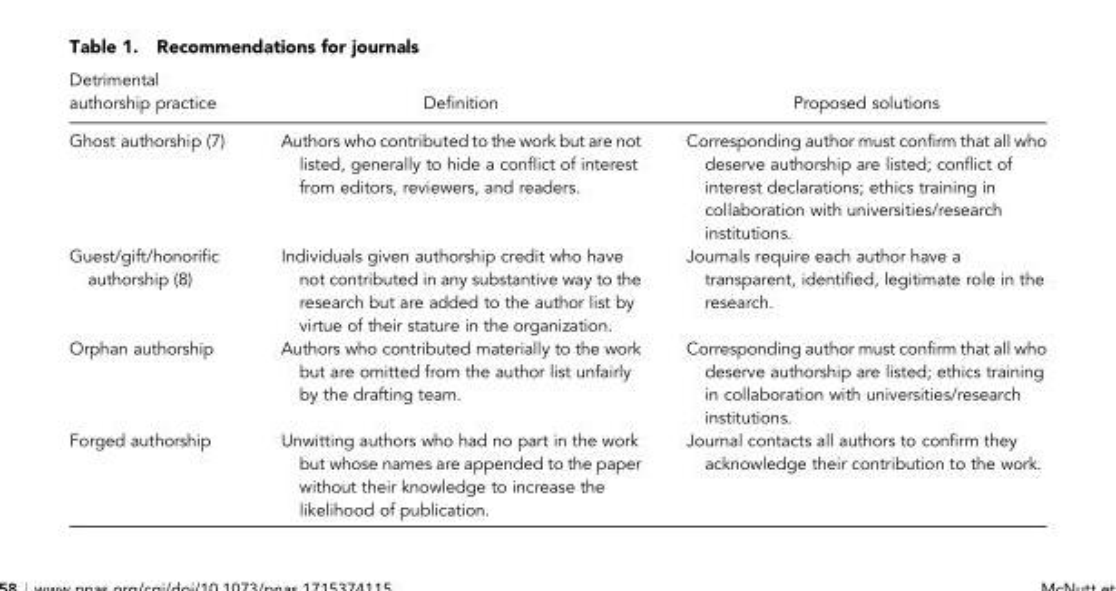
<table><thead><tr><td>Detrimental authorship practice</td><td>Definition</td><td>Proposed solutions</td></tr></thead><tbody><tr><td>Ghost authorship (7)</td><td>Authors who contributed to the work but are not listed, generally to hide a conflict of interest from editors, reviewers, and readers.</td><td>Corresponding author must confirm that all who deserve authorship are listed; conflict of interest declarations; ethics training in collaboration with universities/research institutions.</td></tr><tr><td>Guest/gift/honorific authorship (8)</td><td>Individuals given authorship credit who have not contributed in any substantive way to the research but are added to the author list by virtue of their stature in the organization.</td><td>Journals require each author have a transparent, identified, legitimate role in the research.</td></tr><tr><td>Orphan authorship</td><td>Authors who contributed materially to the work but are omitted from the author list unfairly by the drafting team.</td><td>Corresponding author must confirm that all who deserve authorship are listed; ethics training in collaboration with universities/research institutions.</td></tr><tr><td>Forged authorship</td><td>Unwitting authors who had no part in the work but whose names are appended to the paper without their knowledge to increase the likelihood of publication.</td><td>Journal contacts all authors to confirm they acknowledge their contribution to the work.</td></tr></tbody></table>